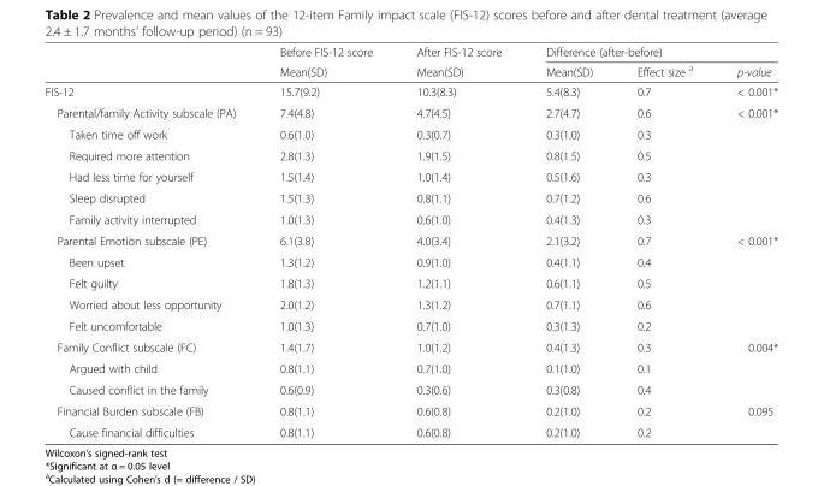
<table><thead><tr><td rowspan="2"></td><td rowspan="2">Before FIS-12 score Mean(SD)</td><td rowspan="2">After FIS-12 score Mean(SD)</td><td colspan="3">Difference (after-before)</td></tr><tr><td>Mean(SD)</td><td>Effect size <sup>a</sup></td><td>p-value</td></tr></thead><tbody><tr><td>FIS-12</td><td>15.7(9.2)</td><td>10.3(8.3)</td><td>5.4(8.3)</td><td>0.7</td><td>&lt; 0.001*</td></tr><tr><td>Parental/family Activity subscale (PA)</td><td>7.4(4.8)</td><td>4.7(4.5)</td><td>2.7(4.7)</td><td>0.6</td><td>&lt; 0.001*</td></tr><tr><td>Taken time off work</td><td>0.6(1.0)</td><td>0.3(0.7)</td><td>0.3(1.0)</td><td>0.3</td><td></td></tr><tr><td>Required more attention</td><td>2.8(1.3)</td><td>1.9(1.5)</td><td>0.8(1.5)</td><td>0.5</td><td></td></tr><tr><td>Had less time for yourself</td><td>1.5(1.4)</td><td>1.0(1.4)</td><td>0.5(1.6)</td><td>0.3</td><td></td></tr><tr><td>Sleep disrupted</td><td>1.5(1.3)</td><td>0.8(1.1)</td><td>0.7(1.2)</td><td>0.6</td><td></td></tr><tr><td>Family activity interrupted</td><td>1.0(1.3)</td><td>0.6(1.0)</td><td>0.4(1.3)</td><td>0.3</td><td></td></tr><tr><td>Parental Emotion subscale (PE)</td><td>6.1(3.8)</td><td>4.0(3.4)</td><td>2.1(3.2)</td><td>0.7</td><td>&lt; 0.001*</td></tr><tr><td>Been upset</td><td>1.3(1.2)</td><td>0.9(1.0)</td><td>0.4(1.1)</td><td>0.4</td><td></td></tr><tr><td>Felt guilty</td><td>1.8(1.3)</td><td>1.2(1.1)</td><td>0.6(1.1)</td><td>0.5</td><td></td></tr><tr><td>Worried about less opportunity</td><td>2.0(1.2)</td><td>1.3(1.2)</td><td>0.7(1.1)</td><td>0.6</td><td></td></tr><tr><td>Felt uncomfortable</td><td>1.0(1.3)</td><td>0.7(1.0)</td><td>0.3(1.3)</td><td>0.2</td><td></td></tr><tr><td>Family Conflict subscale (FC)</td><td>1.4(1.7)</td><td>1.0(1.2)</td><td>0.4(1.3)</td><td>0.3</td><td>0.004*</td></tr><tr><td>Argued with child</td><td>0.8(1.1)</td><td>0.7(1.0)</td><td>0.1(1.0)</td><td>0.1</td><td></td></tr><tr><td>Caused conflict in the family</td><td>0.6(0.9)</td><td>0.3(0.6)</td><td>0.3(0.8)</td><td>0.4</td><td></td></tr><tr><td>Financial Burden subscale (FB)</td><td>0.8(1.1)</td><td>0.6(0.8)</td><td>0.2(1.0)</td><td>0.2</td><td>0.095</td></tr><tr><td>Cause financial difficulties</td><td>0.8(1.1)</td><td>0.6(0.8)</td><td>0.2(1.0)</td><td>0.2</td><td></td></tr></tbody></table>